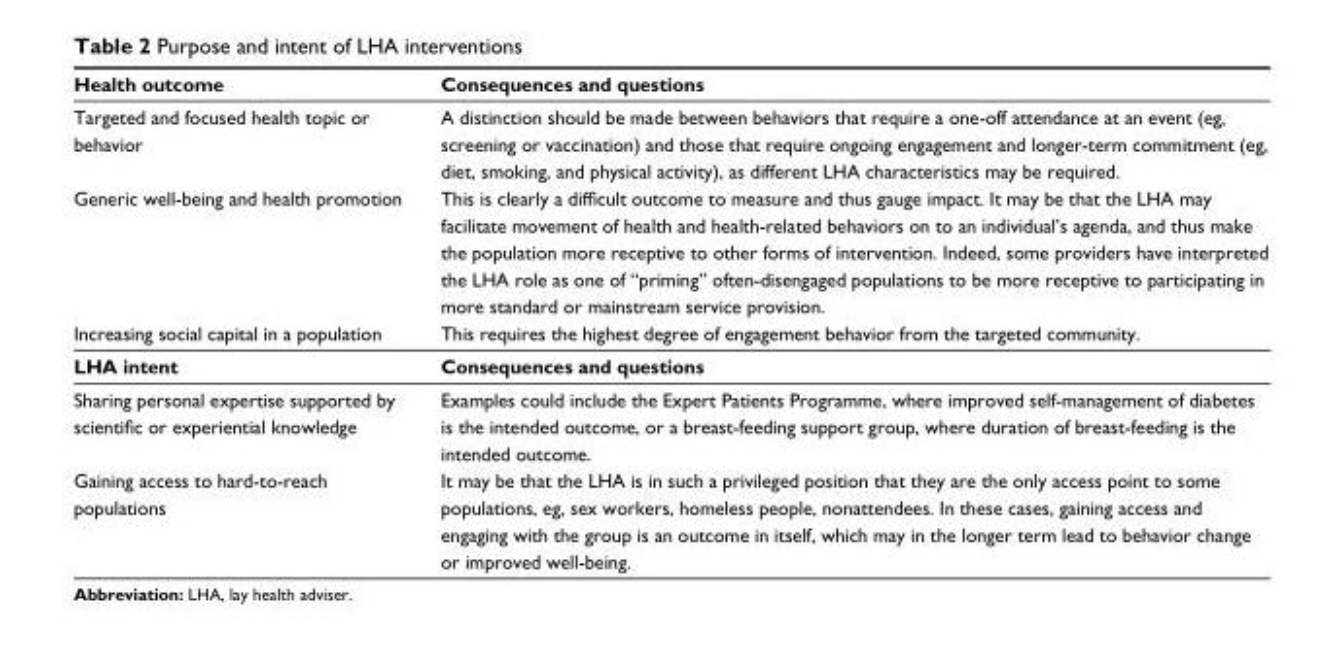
<table><thead><tr><td>Health outcome</td><td>Consequences and questions</td></tr></thead><tbody><tr><td>Targeted and focused health topic or behavior</td><td>A distinction should be made between behaviors that require a one-off attendance at an event (eg, screening or vaccination) and those that require ongoing engagement and longer-term commitment (eg, diet, smoking, and physical activity), as different LHA characteristics may be required.</td></tr><tr><td>Generic well-being and health promotion</td><td>This is clearly a difficult outcome to measure and thus gauge impact. It may be that the LHA may facilitate movement of health and health-related behaviors on to an individual’s agenda, and thus make the population more receptive to other forms of intervention. Indeed, some providers have interpreted the LHA role as one of “priming” often-disengaged populations to be more receptive to participating in more standard or mainstream service provision.</td></tr><tr><td>Increasing social capital in a population</td><td>This requires the highest degree of engagement behavior from the targeted community.</td></tr><tr><td>LHA intent</td><td>Consequences and questions</td></tr><tr><td>Sharing personal expertise supported by scientific or experiential knowledge</td><td>Examples could include the Expert Patients Programme, where improved self-management of diabetes is the intended outcome, or a breast-feeding support group, where duration of breast-feeding is the intended outcome.</td></tr><tr><td>Gaining access to hard-to-reach populations</td><td>It may be that the LHA is in such a privileged position that they are the only access point to some populations, eg, sex workers, homeless people, nonattendees. In these cases, gaining access and engaging with the group is an outcome in itself, which may in the longer term lead to behavior change or improved well-being.</td></tr></tbody></table>